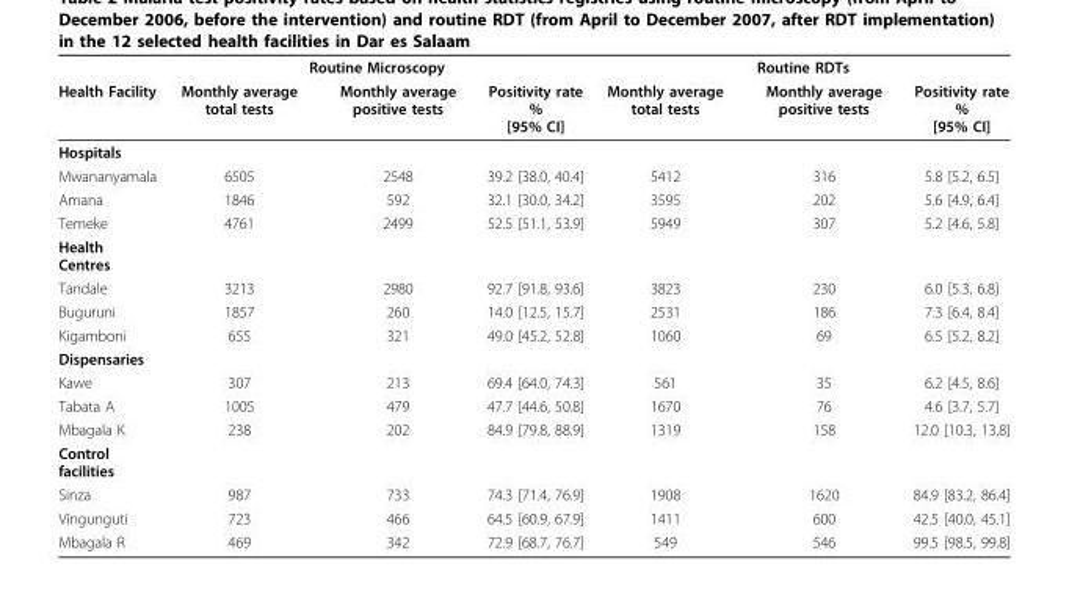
<table><thead><tr><td rowspan="2">Health Facility</td><td colspan="3">Routine Microscopy</td><td colspan="3">Routine RDTs</td></tr><tr><td>Monthly average total tests</td><td>Monthly average positive tests</td><td>Positivity rate % [95% CI]</td><td>Monthly average total tests</td><td>Monthly average positive tests</td><td>Positivity rate % [95% CI]</td></tr></thead><tbody><tr><td colspan="7">Hospitals</td></tr><tr><td>Mwananyamala</td><td>6505</td><td>2548</td><td>39.2 [38.0, 40.4]</td><td>5412</td><td>316</td><td>5.8 [5.2, 6.5]</td></tr><tr><td>Amana</td><td>1846</td><td>592</td><td>32.1 [30.0, 34.2]</td><td>3595</td><td>202</td><td>5.6 [4.9, 6.4]</td></tr><tr><td>Temeke</td><td>4761</td><td>2499</td><td>52.5 [51.1, 53.9]</td><td>5949</td><td>307</td><td>5.2 [4.6, 5.8]</td></tr><tr><td colspan="7">Health Centres</td></tr><tr><td>Tandale</td><td>3213</td><td>2980</td><td>92.7 [91.8, 93.6]</td><td>3823</td><td>230</td><td>6.0 [5.3, 6.8]</td></tr><tr><td>Buguruni</td><td>1857</td><td>260</td><td>14.0 [12.5, 15.7]</td><td>2531</td><td>186</td><td>7.3 [6.4, 8.4]</td></tr><tr><td>Kigamboni</td><td>655</td><td>321</td><td>49.0 [45.2, 52.8]</td><td>1060</td><td>69</td><td>6.5 [5.2, 8.2]</td></tr><tr><td colspan="7">Dispensaries</td></tr><tr><td>Kawe</td><td>307</td><td>213</td><td>69.4 [64.0, 74.3]</td><td>561</td><td>35</td><td>6.2 [4.5, 8.6]</td></tr><tr><td>Tabata A</td><td>1005</td><td>479</td><td>47.7 [44.6, 50.8]</td><td>1670</td><td>76</td><td>4.6 [3.7, 5.7]</td></tr><tr><td>Mbagala K</td><td>238</td><td>202</td><td>84.9 [79.8, 88.9]</td><td>1319</td><td>158</td><td>12.0 [10.3, 13.8]</td></tr><tr><td colspan="7">Control facilities</td></tr><tr><td>Sinza</td><td>987</td><td>733</td><td>74.3 [71.4, 76.9]</td><td>1908</td><td>1620</td><td>84.9 [83.2, 86.4]</td></tr><tr><td>Vingunguti</td><td>723</td><td>466</td><td>64.5 [60.9, 67.9]</td><td>1411</td><td>600</td><td>42.5 [40.0, 45.1]</td></tr><tr><td>Mbagala R</td><td>469</td><td>342</td><td>72.9 [68.7, 76.7]</td><td>549</td><td>546</td><td>99.5 [98.5, 99.8]</td></tr></tbody></table>